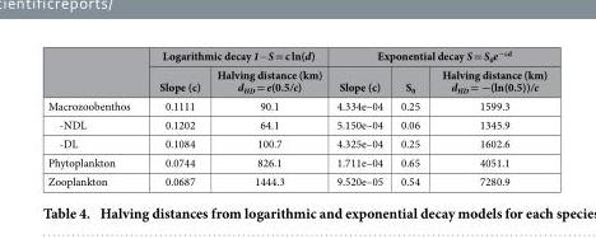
<table><thead><tr><td rowspan="2"></td><td colspan="2">Logarithmic decay 1−S = c ln(d)</td><td colspan="3">Exponential decay S = S<sub>0</sub>e<sup>−cd</sup></td></tr><tr><td>Slope (c)</td><td>Halving distance (km) d<sub>HD</sub> = e(0.5/c)</td><td>Slope (c)</td><td>S<sub>0</sub></td><td>Halving distance (km) d<sub>HD</sub> = −(ln(0.5))/c</td></tr></thead><tbody><tr><td>Macrozoobenthos</td><td>0.1111</td><td>90.1</td><td>4.334e–04</td><td>0.25</td><td>1599.3</td></tr><tr><td>-NDL</td><td>0.1202</td><td>64.1</td><td>5.150e–04</td><td>0.06</td><td>1345.9</td></tr><tr><td>-DL</td><td>0.1084</td><td>100.7</td><td>4.325e–04</td><td>0.25</td><td>1602.6</td></tr><tr><td>Phytoplankton</td><td>0.0744</td><td>826.1</td><td>1.711e–04</td><td>0.65</td><td>4051.1</td></tr><tr><td>Zooplankton</td><td>0.0687</td><td>1444.3</td><td>9.520e–05</td><td>0.54</td><td>7280.9</td></tr></tbody></table>